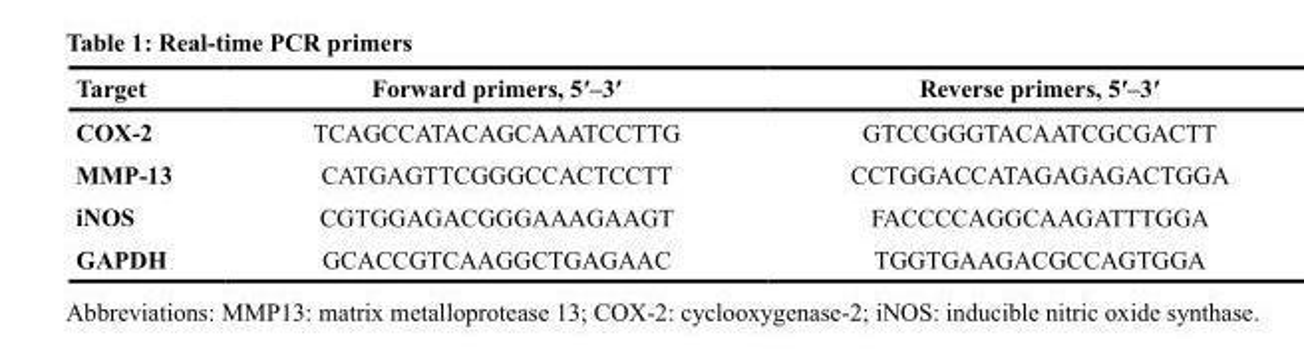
<table><thead><tr><td>Target</td><td>Forward primers, 5′–3′</td><td>Reverse primers, 5′–3′</td></tr></thead><tbody><tr><td>COX-2</td><td>TCAGCCATACAGCAAATCCTTG</td><td>GTCCGGGTACAATCGCGACTT</td></tr><tr><td>MMP-13</td><td>CATGAGTTCGGGCCACTCCTT</td><td>CCTGGACCATAGAGAGACTGGA</td></tr><tr><td>iNOS</td><td>CGTGGAGACGGGAAAGAAGT</td><td>FACCCCAGGCAAGATTTGGA</td></tr><tr><td>GAPDH</td><td>GCACCGTCAAGGCTGAGAAC</td><td>TGGTGAAGACGCCAGTGGA</td></tr></tbody></table>